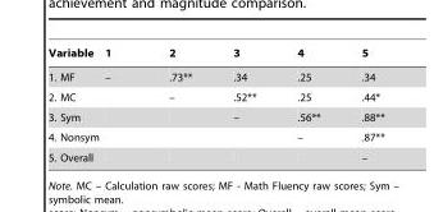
<table><thead><tr><td>Variable</td><td>1</td><td>2</td><td>3</td><td>4</td><td>5</td></tr></thead><tbody><tr><td>1. MF</td><td>–</td><td>.73**</td><td>.34</td><td>.25</td><td>.34</td></tr><tr><td>2. MC</td><td></td><td>–</td><td>.52**</td><td>.25</td><td>.44*</td></tr><tr><td>3. Sym</td><td></td><td></td><td>–</td><td>.56**</td><td>.88**</td></tr><tr><td>4. Nonsym</td><td></td><td></td><td></td><td>–</td><td>.87**</td></tr><tr><td>5. Overall</td><td></td><td></td><td></td><td></td><td>–</td></tr></tbody></table>